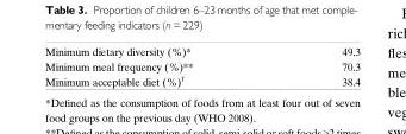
<table><tbody><tr><td>Minimum dietary diversity (%)*</td><td>49.3</td></tr><tr><td>Minimum meal frequency (%)**</td><td>70.3</td></tr><tr><td>Minimum acceptable diet (%)†</td><td>38.4</td></tr></tbody></table>